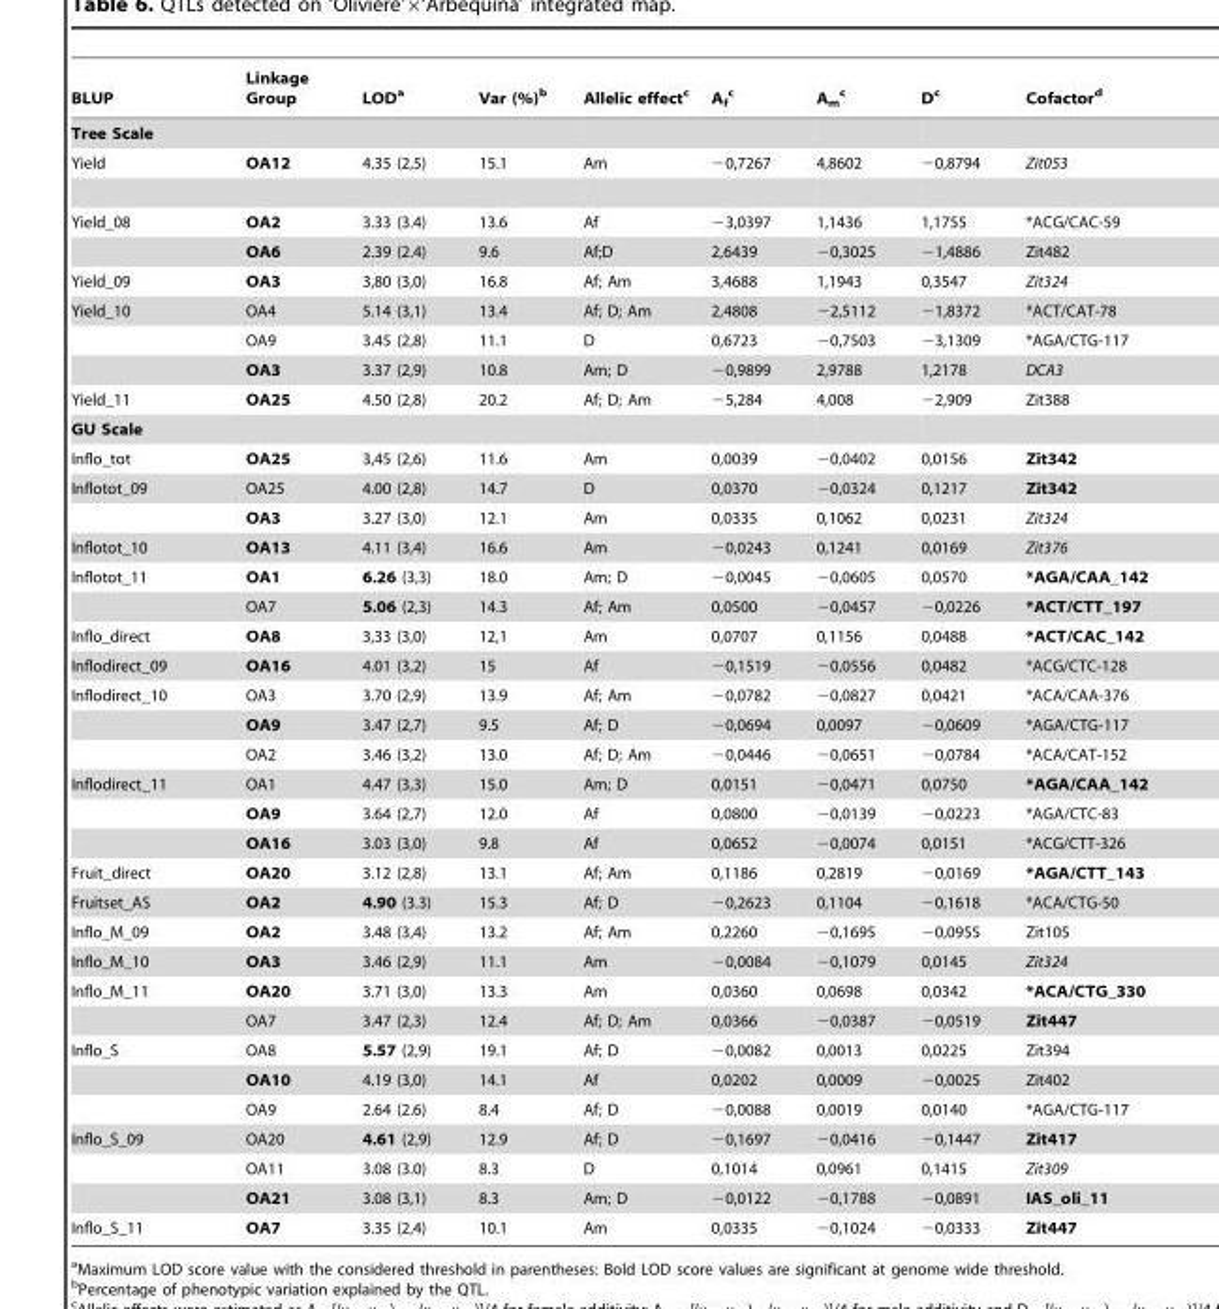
<table><thead><tr><td>BLUP</td><td>Linkage Group</td><td>LOD<sup>a</sup></td><td>Var (%)<sup>b</sup></td><td>Allelic effect<sup>c</sup></td><td>A<sub>f</sub> c</td><td>A<sub>m</sub> c</td><td>D<sup>c</sup></td><td>Cofactor<sup>d</sup></td></tr></thead><tbody><tr><td colspan="9">Tree Scale</td></tr><tr><td>Yield</td><td>OA12</td><td>4.35 (2,5)</td><td>15.1</td><td>Am</td><td>−0,7267</td><td>4,8602</td><td>−0,8794</td><td>Zit053</td></tr><tr><td rowspan="2">Yield_08</td><td>OA2</td><td>3.33 (3.4)</td><td>13.6</td><td>Af</td><td>−3,0397</td><td>1,1436</td><td>1,1755</td><td>*ACG/CAC-59</td></tr><tr><td>OA6</td><td>2.39 (2.4)</td><td>9.6</td><td>Af;D</td><td>2,6439</td><td>−0,3025</td><td>−1,4886</td><td>Zit482</td></tr><tr><td>Yield_09</td><td>OA3</td><td>3,80 (3,0)</td><td>16.8</td><td>Af; Am</td><td>3,4688</td><td>1,1943</td><td>0,3547</td><td>Zit324</td></tr><tr><td rowspan="3">Yield_10</td><td>OA4</td><td>5.14 (3,1)</td><td>13.4</td><td>Af; D; Am</td><td>2,4808</td><td>−2,5112</td><td>−1,8372</td><td>*ACT/CAT-78</td></tr><tr><td>OA9</td><td>3.45 (2,8)</td><td>11.1</td><td>D</td><td>0,6723</td><td>−0,7503</td><td>−3,1309</td><td>*AGA/CTG-117</td></tr><tr><td>OA3</td><td>3.37 (2,9)</td><td>10.8</td><td>Am; D</td><td>−0,9899</td><td>2,9788</td><td>1,2178</td><td>DCA3</td></tr><tr><td>Yield_11</td><td>OA25</td><td>4.50 (2,8)</td><td>20.2</td><td>Af; D; Am</td><td>−5,284</td><td>4,008</td><td>−2,909</td><td>Zit388</td></tr><tr><td colspan="9">GU Scale</td></tr><tr><td>Inflo_tot</td><td>OA25</td><td>3,45 (2,6)</td><td>11.6</td><td>Am</td><td>0,0039</td><td>−0,0402</td><td>0,0156</td><td>Zit342</td></tr><tr><td rowspan="2">Inflotot_09</td><td>OA25</td><td>4.00 (2,8)</td><td>14.7</td><td>D</td><td>0,0370</td><td>−0,0324</td><td>0,1217</td><td>Zit342</td></tr><tr><td>OA3</td><td>3.27 (3,0)</td><td>12.1</td><td>Am</td><td>0,0335</td><td>0,1062</td><td>0,0231</td><td>Zit324</td></tr><tr><td>Inflotot_10</td><td>OA13</td><td>4.11 (3,4)</td><td>16.6</td><td>Am</td><td>−0,0243</td><td>0,1241</td><td>0,0169</td><td>Zit376</td></tr><tr><td rowspan="2">Inflotot_11</td><td>OA1</td><td>6.26 (3,3)</td><td>18.0</td><td>Am; D</td><td>−0,0045</td><td>−0,0605</td><td>0,0570</td><td>*AGA/CAA_142</td></tr><tr><td>OA7</td><td>5.06 (2,3)</td><td>14.3</td><td>Af; Am</td><td>0,0500</td><td>−0,0457</td><td>−0,0226</td><td>*ACT/CTT_197</td></tr><tr><td>Inflo_direct</td><td>OA8</td><td>3,33 (3,0)</td><td>12,1</td><td>Am</td><td>0,0707</td><td>0,1156</td><td>0,0488</td><td>*ACT/CAC_142</td></tr><tr><td>Inflodirect_09</td><td>OA16</td><td>4.01 (3,2)</td><td>15</td><td>Af</td><td>−0,1519</td><td>−0,0556</td><td>0,0482</td><td>*ACG/CTC-128</td></tr><tr><td rowspan="3">Inflodirect_10</td><td>OA3</td><td>3.70 (2,9)</td><td>13.9</td><td>Af; Am</td><td>−0,0782</td><td>−0,0827</td><td>0,0421</td><td>*ACA/CAA-376</td></tr><tr><td>OA9</td><td>3.47 (2,7)</td><td>9.5</td><td>Af; D</td><td>−0,0694</td><td>0,0097</td><td>−0,0609</td><td>*AGA/CTG-117</td></tr><tr><td>OA2</td><td>3.46 (3,2)</td><td>13.0</td><td>Af; D; Am</td><td>−0,0446</td><td>−0,0651</td><td>−0,0784</td><td>*ACA/CAT-152</td></tr><tr><td rowspan="3">Inflodirect_11</td><td>OA1</td><td>4.47 (3,3)</td><td>15.0</td><td>Am; D</td><td>0,0151</td><td>−0,0471</td><td>0,0750</td><td>*AGA/CAA_142</td></tr><tr><td>OA9</td><td>3.64 (2,7)</td><td>12.0</td><td>Af</td><td>0,0800</td><td>−0,0139</td><td>−0,0223</td><td>*AGA/CTC-83</td></tr><tr><td>OA16</td><td>3.03 (3,0)</td><td>9.8</td><td>Af</td><td>0,0652</td><td>−0,0074</td><td>0,0151</td><td>*ACG/CTT-326</td></tr><tr><td>Fruit_direct</td><td>OA20</td><td>3.12 (2,8)</td><td>13.1</td><td>Af; Am</td><td>0,1186</td><td>0,2819</td><td>−0,0169</td><td>*AGA/CTT_143</td></tr><tr><td>Fruitset_AS</td><td>OA2</td><td>4.90 (3.3)</td><td>15.3</td><td>Af; D</td><td>−0,2623</td><td>0,1104</td><td>−0,1618</td><td>*ACA/CTG-50</td></tr><tr><td>Inflo_M_09</td><td>OA2</td><td>3.48 (3,4)</td><td>13.2</td><td>Af; Am</td><td>0,2260</td><td>−0,1695</td><td>−0,0955</td><td>Zit105</td></tr><tr><td>Inflo_M_10</td><td>OA3</td><td>3.46 (2,9)</td><td>11.1</td><td>Am</td><td>−0,0084</td><td>−0,1079</td><td>0,0145</td><td>Zit324</td></tr><tr><td rowspan="2">Inflo_M_11</td><td>OA20</td><td>3.71 (3,0)</td><td>13.3</td><td>Am</td><td>0,0360</td><td>0,0698</td><td>0,0342</td><td>*ACA/CTG_330</td></tr><tr><td>OA7</td><td>3.47 (2,3)</td><td>12.4</td><td>Af; D; Am</td><td>0,0366</td><td>−0,0387</td><td>−0,0519</td><td>Zit447</td></tr><tr><td rowspan="3">Inflo_S</td><td>OA8</td><td>5.57 (2,9)</td><td>19.1</td><td>Af; D</td><td>−0,0082</td><td>0,0013</td><td>0,0225</td><td>Zit394</td></tr><tr><td>OA10</td><td>4.19 (3,0)</td><td>14.1</td><td>Af</td><td>0,0202</td><td>0,0009</td><td>−0,0025</td><td>Zit402</td></tr><tr><td>OA9</td><td>2.64 (2.6)</td><td>8.4</td><td>Af; D</td><td>−0,0088</td><td>0,0019</td><td>0,0140</td><td>*AGA/CTG-117</td></tr><tr><td rowspan="3">Inflo_S_09</td><td>OA20</td><td>4.61 (2,9)</td><td>12.9</td><td>Af; D</td><td>−0,1697</td><td>−0,0416</td><td>−0,1447</td><td>Zit417</td></tr><tr><td>OA11</td><td>3.08 (3.0)</td><td>8.3</td><td>D</td><td>0,1014</td><td>0,0961</td><td>0,1415</td><td>Zit309</td></tr><tr><td>OA21</td><td>3.08 (3,1)</td><td>8.3</td><td>Am; D</td><td>−0,0122</td><td>−0,1788</td><td>−0,0891</td><td>IAS_oli_11</td></tr><tr><td>Inflo_S_11</td><td>OA7</td><td>3.35 (2,4)</td><td>10.1</td><td>Am</td><td>0,0335</td><td>−0,1024</td><td>−0,0333</td><td>Zit447</td></tr></tbody></table>